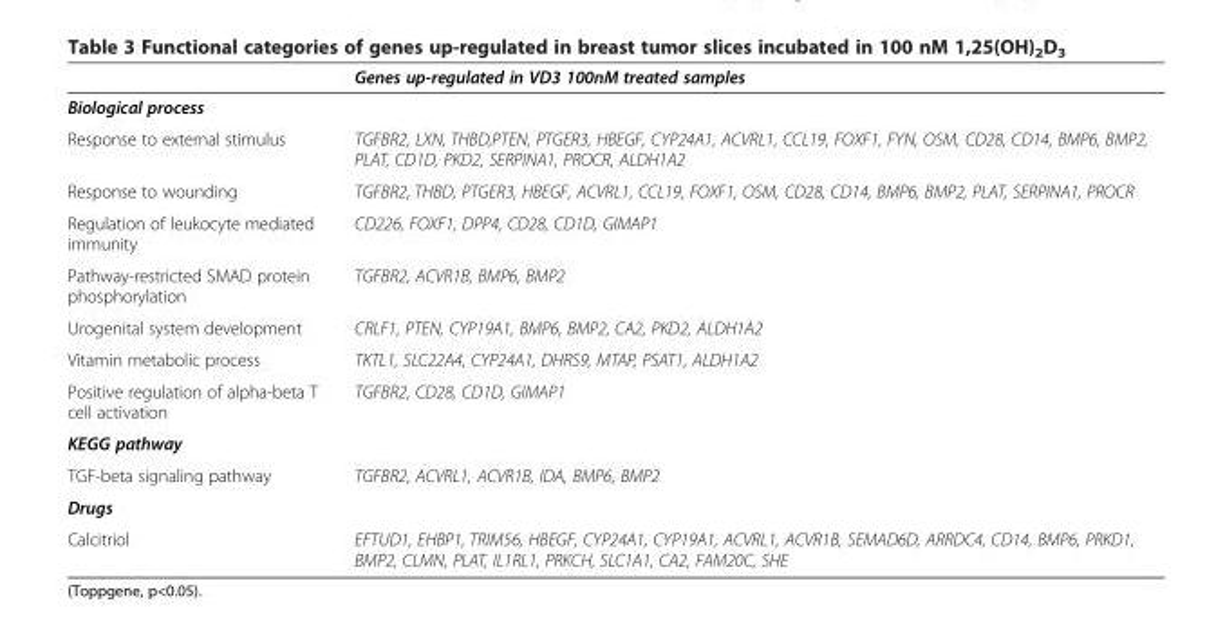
<table><thead><tr><td></td><td>Genes up-regulated in VD3 100nM treated samples</td></tr></thead><tbody><tr><td colspan="2">Biological process</td></tr><tr><td>Response to external stimulus</td><td>TGFBR2, LXN, THBD,PTEN, PTGER3, HBEGF, CYP24A1, ACVRL1, CCL19, FOXF1, FYN, OSM, CD28, CD14, BMP6, BMP2, PLAT, CD1D, PKD2, SERPINA1, PROCR, ALDH1A2</td></tr><tr><td>Response to wounding</td><td>TGFBR2, THBD, PTGER3, HBEGF, ACVRL1, CCL19, FOXF1, OSM, CD28, CD14, BMP6, BMP2, PLAT, SERPINA1, PROCR</td></tr><tr><td>Regulation of leukocyte mediated immunity</td><td>CD226, FOXF1, DPP4, CD28, CD1D, GIMAP1</td></tr><tr><td>Pathway-restricted SMAD protein phosphorylation</td><td>TGFBR2, ACVR1B, BMP6, BMP2</td></tr><tr><td>Urogenital system development</td><td>CRLF1, PTEN, CYP19A1, BMP6, BMP2, CA2, PKD2, ALDH1A2</td></tr><tr><td>Vitamin metabolic process</td><td>TKTL1, SLC22A4, CYP24A1, DHRS9, MTAP, PSAT1, ALDH1A2</td></tr><tr><td>Positive regulation of alpha-beta T cell activation</td><td>TGFBR2, CD28, CD1D, GIMAP1</td></tr><tr><td colspan="2">KEGG pathway</td></tr><tr><td>TGF-beta signaling pathway</td><td>TGFBR2, ACVRL1, ACVR1B, IDA, BMP6, BMP2</td></tr><tr><td colspan="2">Drugs</td></tr><tr><td>Calcitriol</td><td>EFTUD1, EHBP1, TRIM56, HBEGF, CYP24A1, CYP19A1, ACVRL1, ACVR1B, SEMAD6D, ARRDC4, CD14, BMP6, PRKD1, BMP2, CLMN, PLAT, IL1RL1, PRKCH, SLC1A1, CA2, FAM20C, SHE</td></tr></tbody></table>